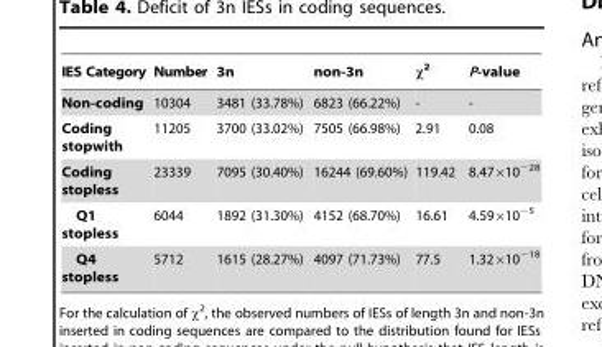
<table><thead><tr><td>IES Category</td><td>Number</td><td>3n</td><td>non-3n</td><td>x2</td><td>P-value</td></tr></thead><tbody><tr><td>Non-coding</td><td>10304</td><td>3481 (33.78%)</td><td>6823 (66.22%)</td><td>-</td><td>-</td></tr><tr><td>Coding stopwith</td><td>11205</td><td>3700 (33.02%)</td><td>7505 (66.98%)</td><td>2.91</td><td>0.08</td></tr><tr><td>Coding stopless</td><td>23339</td><td>7095 (30.40%)</td><td>16244 (69.60%)</td><td>119.42</td><td>8.47×10<sup>−28</sup></td></tr><tr><td>Q1 stopless</td><td>6044</td><td>1892 (31.30%)</td><td>4152 (68.70%)</td><td>16.61</td><td>4.59×10<sup>−5</sup></td></tr><tr><td>Q4 stopless</td><td>5712</td><td>1615 (28.27%)</td><td>4097 (71.73%)</td><td>77.5</td><td>1.32×10<sup>−18</sup></td></tr></tbody></table>